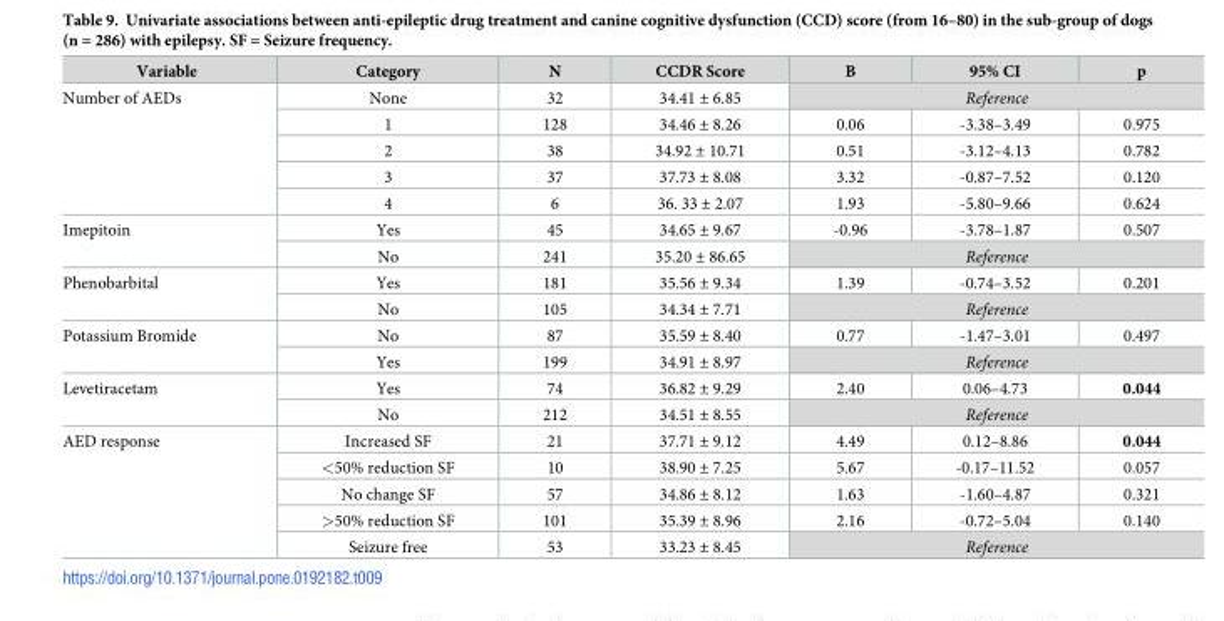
<table><thead><tr><td>Variable</td><td>Category</td><td>N</td><td>CCDR Score</td><td>B</td><td>95% CI</td><td>p</td></tr></thead><tbody><tr><td rowspan="5">Number of AEDs</td><td>None</td><td>32</td><td>34.41 ± 6.85</td><td colspan="3">Reference</td></tr><tr><td>1</td><td>128</td><td>34.46 ± 8.26</td><td>0.06</td><td>-3.38–3.49</td><td>0.975</td></tr><tr><td>2</td><td>38</td><td>34.92 ± 10.71</td><td>0.51</td><td>-3.12–4.13</td><td>0.782</td></tr><tr><td>3</td><td>37</td><td>37.73 ± 8.08</td><td>3.32</td><td>-0.87–7.52</td><td>0.120</td></tr><tr><td>4</td><td>6</td><td>36. 33 ± 2.07</td><td>1.93</td><td>-5.80–9.66</td><td>0.624</td></tr><tr><td rowspan="2">Imepitoin</td><td>Yes</td><td>45</td><td>34.65 ± 9.67</td><td>-0.96</td><td>-3.78–1.87</td><td>0.507</td></tr><tr><td>No</td><td>241</td><td>35.20 ± 86.65</td><td colspan="3">Reference</td></tr><tr><td rowspan="2">Phenobarbital</td><td>Yes</td><td>181</td><td>35.56 ± 9.34</td><td>1.39</td><td>-0.74–3.52</td><td>0.201</td></tr><tr><td>No</td><td>105</td><td>34.34 ± 7.71</td><td colspan="3">Reference</td></tr><tr><td rowspan="2">Potassium Bromide</td><td>No</td><td>87</td><td>35.59 ± 8.40</td><td>0.77</td><td>-1.47–3.01</td><td>0.497</td></tr><tr><td>Yes</td><td>199</td><td>34.91 ± 8.97</td><td colspan="3">Reference</td></tr><tr><td rowspan="2">Levetiracetam</td><td>Yes</td><td>74</td><td>36.82 ± 9.29</td><td>2.40</td><td>0.06–4.73</td><td>0.044</td></tr><tr><td>No</td><td>212</td><td>34.51 ± 8.55</td><td colspan="3">Reference</td></tr><tr><td rowspan="5">AED response</td><td>Increased SF</td><td>21</td><td>37.71 ± 9.12</td><td>4.49</td><td>0.12–8.86</td><td>0.044</td></tr><tr><td>&lt;50% reduction SF</td><td>10</td><td>38.90 ± 7.25</td><td>5.67</td><td>-0.17–11.52</td><td>0.057</td></tr><tr><td>No change SF</td><td>57</td><td>34.86 ± 8.12</td><td>1.63</td><td>-1.60–4.87</td><td>0.321</td></tr><tr><td>&gt;50% reduction SF</td><td>101</td><td>35.39 ± 8.96</td><td>2.16</td><td>-0.72–5.04</td><td>0.140</td></tr><tr><td>Seizure free</td><td>53</td><td>33.23 ± 8.45</td><td colspan="3">Reference</td></tr></tbody></table>